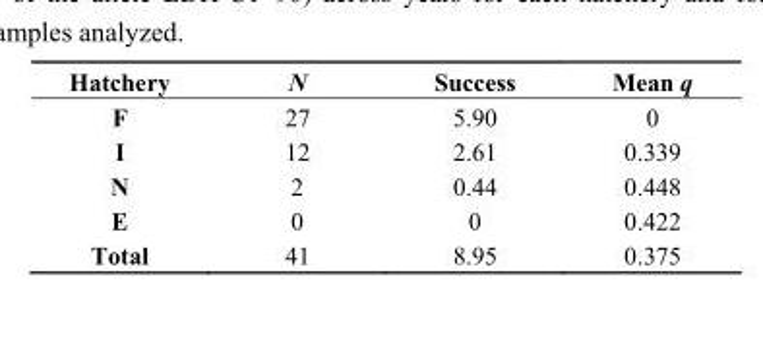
<table><thead><tr><td>Hatchery</td><td>N</td><td>Success</td><td>Mean q</td></tr></thead><tbody><tr><td>F</td><td>27</td><td>5.90</td><td>0</td></tr><tr><td>I</td><td>12</td><td>2.61</td><td>0.339</td></tr><tr><td>N</td><td>2</td><td>0.44</td><td>0.448</td></tr><tr><td>E</td><td>0</td><td>0</td><td>0.422</td></tr><tr><td>Total</td><td>41</td><td>8.95</td><td>0.375</td></tr></tbody></table>